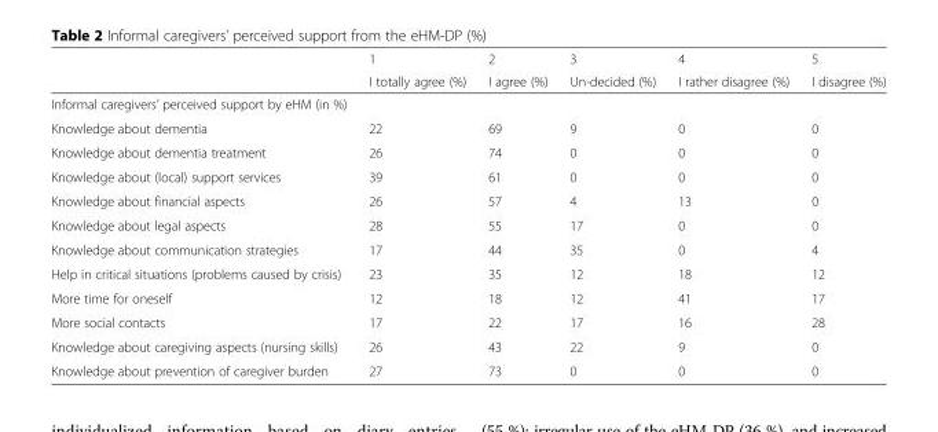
<table><thead><tr><td rowspan="2"></td><td rowspan="2">1 I totally agree (%)</td><td rowspan="2">2 I agree (%)</td><td rowspan="2">3 Un-decided (%)</td><td rowspan="2">4 I rather disagree (%)</td><td rowspan="2">5 I disagree (%)</td></tr><tr></tr></thead><tbody><tr><td colspan="6">Informal caregivers’ perceived support by eHM (in %)</td></tr><tr><td>Knowledge about dementia</td><td>22</td><td>69</td><td>9</td><td>0</td><td>0</td></tr><tr><td>Knowledge about dementia treatment</td><td>26</td><td>74</td><td>0</td><td>0</td><td>0</td></tr><tr><td>Knowledge about (local) support services</td><td>39</td><td>61</td><td>0</td><td>0</td><td>0</td></tr><tr><td>Knowledge about financial aspects</td><td>26</td><td>57</td><td>4</td><td>13</td><td>0</td></tr><tr><td>Knowledge about legal aspects</td><td>28</td><td>55</td><td>17</td><td>0</td><td>0</td></tr><tr><td>Knowledge about communication strategies</td><td>17</td><td>44</td><td>35</td><td>0</td><td>4</td></tr><tr><td>Help in critical situations (problems caused by crisis)</td><td>23</td><td>35</td><td>12</td><td>18</td><td>12</td></tr><tr><td>More time for oneself</td><td>12</td><td>18</td><td>12</td><td>41</td><td>17</td></tr><tr><td>More social contacts</td><td>17</td><td>22</td><td>17</td><td>16</td><td>28</td></tr><tr><td>Knowledge about caregiving aspects (nursing skills)</td><td>26</td><td>43</td><td>22</td><td>9</td><td>0</td></tr><tr><td>Knowledge about prevention of caregiver burden</td><td>27</td><td>73</td><td>0</td><td>0</td><td>0</td></tr></tbody></table>